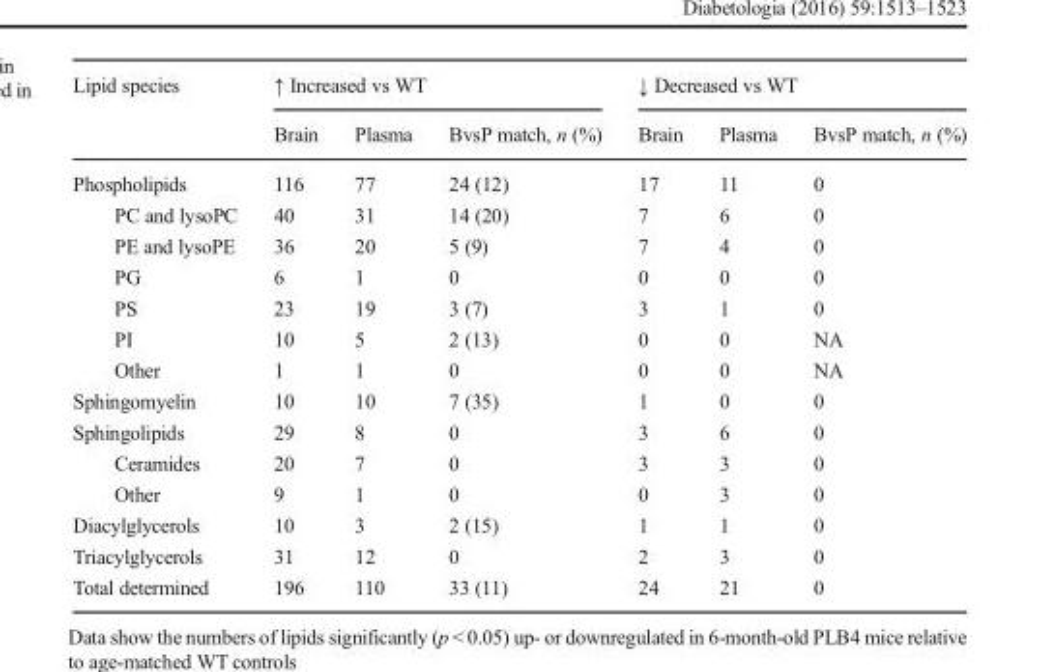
<table><thead><tr><td rowspan="2">Lipid species</td><td colspan="3">↑ Increased vs WT</td><td colspan="3">↓ Decreased vs WT</td></tr><tr><td>Brain</td><td>Plasma</td><td>BvsP match, n (%)</td><td>Brain</td><td>Plasma</td><td>BvsP match, n (%)</td></tr></thead><tbody><tr><td>Phospholipids</td><td>116</td><td>77</td><td>24 (12)</td><td>17</td><td>11</td><td>0</td></tr><tr><td>PC and lysoPC</td><td>40</td><td>31</td><td>14 (20)</td><td>7</td><td>6</td><td>0</td></tr><tr><td>PE and lysoPE</td><td>36</td><td>20</td><td>5 (9)</td><td>7</td><td>4</td><td>0</td></tr><tr><td>PG</td><td>6</td><td>1</td><td>0</td><td>0</td><td>0</td><td>0</td></tr><tr><td>PS</td><td>23</td><td>19</td><td>3 (7)</td><td>3</td><td>1</td><td>0</td></tr><tr><td>PI</td><td>10</td><td>5</td><td>2 (13)</td><td>0</td><td>0</td><td>NA</td></tr><tr><td>Other</td><td>1</td><td>1</td><td>0</td><td>0</td><td>0</td><td>NA</td></tr><tr><td>Sphingomyelin</td><td>10</td><td>10</td><td>7 (35)</td><td>1</td><td>0</td><td>0</td></tr><tr><td>Sphingolipids</td><td>29</td><td>8</td><td>0</td><td>3</td><td>6</td><td>0</td></tr><tr><td>Ceramides</td><td>20</td><td>7</td><td>0</td><td>3</td><td>3</td><td>0</td></tr><tr><td>Other</td><td>9</td><td>1</td><td>0</td><td>0</td><td>3</td><td>0</td></tr><tr><td>Diacylglycerols</td><td>10</td><td>3</td><td>2 (15)</td><td>1</td><td>1</td><td>0</td></tr><tr><td>Triacylglycerols</td><td>31</td><td>12</td><td>0</td><td>2</td><td>3</td><td>0</td></tr><tr><td>Total determined</td><td>196</td><td>110</td><td>33 (11)</td><td>24</td><td>21</td><td>0</td></tr></tbody></table>